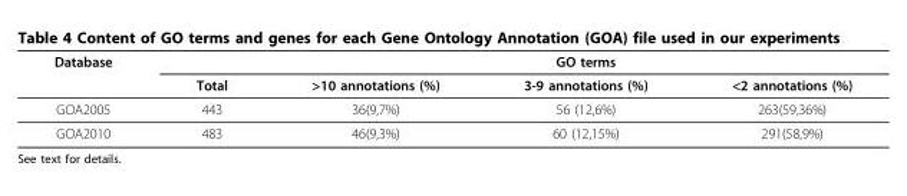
<table><thead><tr><td rowspan="2">Database</td><td rowspan="2">Total</td><td rowspan="2">&gt;10 annotations (%)</td><td rowspan="2">GO terms 3-9 annotations (%)</td><td rowspan="2">&lt;2 annotations (%)</td></tr><tr></tr></thead><tbody><tr><td>GOA2005</td><td>443</td><td>36(9,7%)</td><td>56 (12,6%)</td><td>263(59,36%)</td></tr><tr><td>GOA2010</td><td>483</td><td>46(9,3%)</td><td>60 (12,15%)</td><td>291(58,9%)</td></tr></tbody></table>